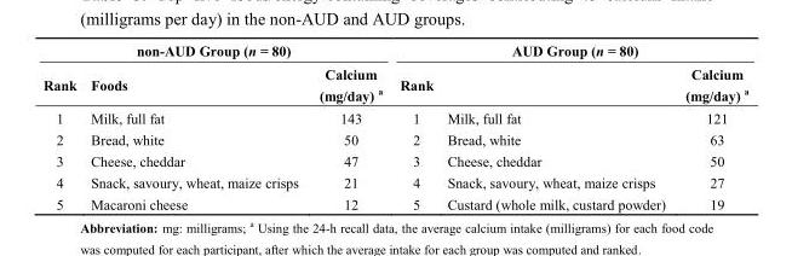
<table><thead><tr><td colspan="3">non-AUD Group (n = 80)</td><td colspan="3">AUD Group (n = 80)</td></tr><tr><td>Rank</td><td>Foods</td><td>Calcium (mg/day) <sup>a</sup></td><td>Rank</td><td></td><td>Calcium (mg/day) <sup>a</sup></td></tr></thead><tbody><tr><td>1</td><td>Milk, full fat</td><td>143</td><td>1</td><td>Milk, full fat</td><td>121</td></tr><tr><td>2</td><td>Bread, white</td><td>50</td><td>2</td><td>Bread, white</td><td>63</td></tr><tr><td>3</td><td>Cheese, cheddar</td><td>47</td><td>3</td><td>Cheese, cheddar</td><td>50</td></tr><tr><td>4</td><td>Snack, savoury, wheat, maize crisps</td><td>21</td><td>4</td><td>Snack, savoury, wheat, maize crisps</td><td>27</td></tr><tr><td>5</td><td>Macaroni cheese</td><td>12</td><td>5</td><td>Custard (whole milk, custard powder)</td><td>19</td></tr></tbody></table>